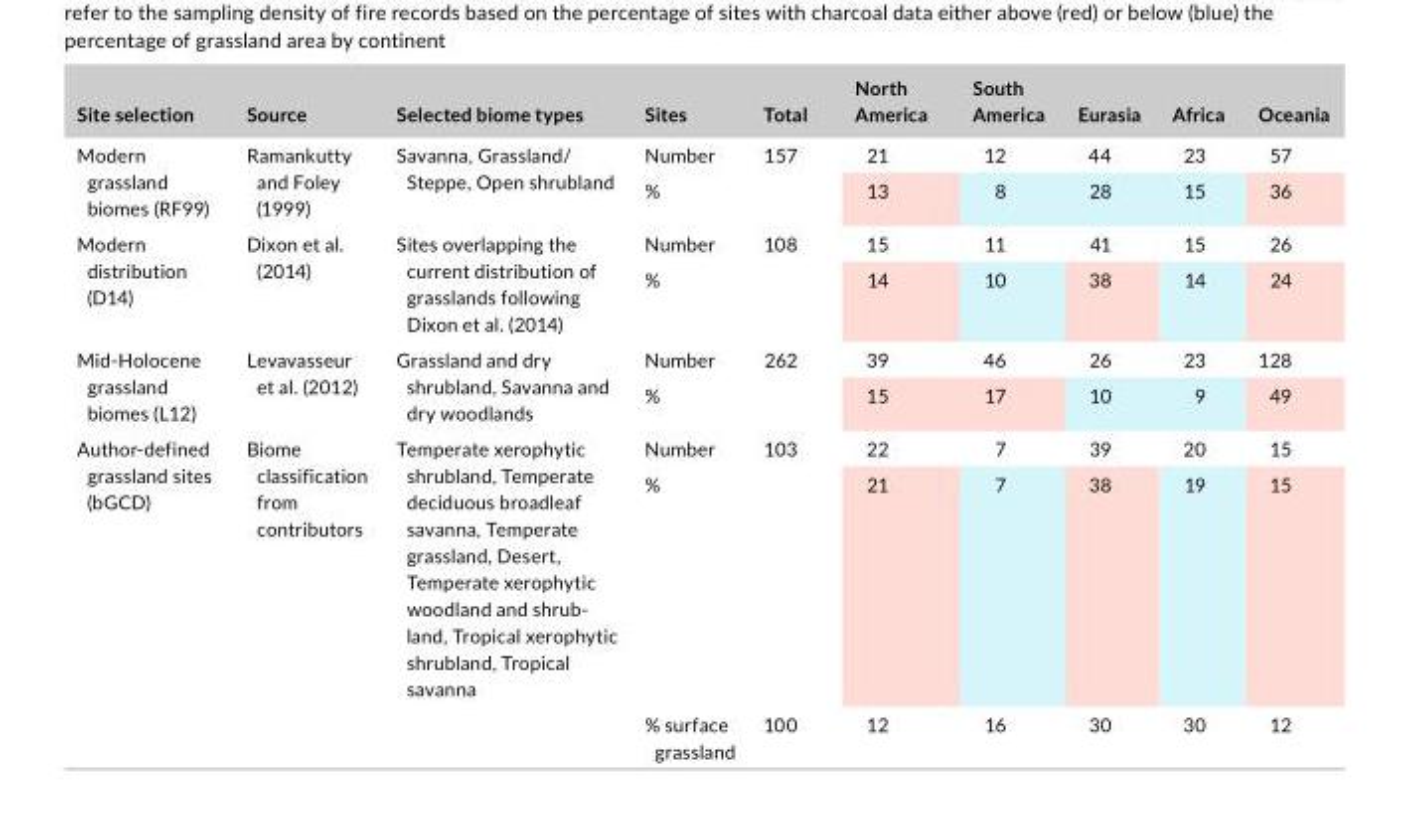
<table><thead><tr><td>Site selection</td><td>Source</td><td>Selected biome types</td><td>Sites</td><td>Total</td><td>North America</td><td>South America</td><td>Eurasia</td><td>Africa</td><td>Oceania</td></tr></thead><tbody><tr><td rowspan="2">Modern grassland biomes (RF99)</td><td rowspan="2">Ramankutty and Foley (1999)</td><td rowspan="2">Savanna, Grassland/ Steppe, Open shrubland</td><td>Number</td><td>157</td><td>21</td><td>12</td><td>44</td><td>23</td><td>57</td></tr><tr><td>%</td><td></td><td>13</td><td>8</td><td>28</td><td>15</td><td>36</td></tr><tr><td rowspan="2">Modern distribution (D14)</td><td rowspan="2">Dixon et al. (2014)</td><td rowspan="2">Sites overlapping the current distribution of grasslands following Dixon et al. (2014)</td><td>Number</td><td>108</td><td>15</td><td>11</td><td>41</td><td>15</td><td>26</td></tr><tr><td>%</td><td></td><td>14</td><td>10</td><td>38</td><td>14</td><td>24</td></tr><tr><td rowspan="2">Mid- Holocene grassland biomes (L12)</td><td rowspan="2">Levavasseur et al. (2012)</td><td rowspan="2">Grassland and dry shrubland, Savanna and dry woodlands</td><td>Number</td><td>262</td><td>39</td><td>46</td><td>26</td><td>23</td><td>128</td></tr><tr><td>%</td><td></td><td>15</td><td>17</td><td>10</td><td>9</td><td>49</td></tr><tr><td rowspan="3">Author- defined grassland sites (bGCD)</td><td rowspan="2">Biome classification from contributors</td><td rowspan="2">Temperate xerophytic shrubland, Temperate deciduous broadleaf savanna, Temperate grassland, Desert, Temperate xerophytic woodland and shrub- land, Tropical xerophytic shrubland, Tropical savanna</td><td>Number</td><td>103</td><td>22</td><td>7</td><td>39</td><td>20</td><td>15</td></tr><tr><td>%</td><td></td><td>21</td><td>7</td><td>38</td><td>19</td><td>15</td></tr><tr><td></td><td></td><td>% surface grassland</td><td>100</td><td>12</td><td>16</td><td>30</td><td>30</td><td>12</td></tr></tbody></table>